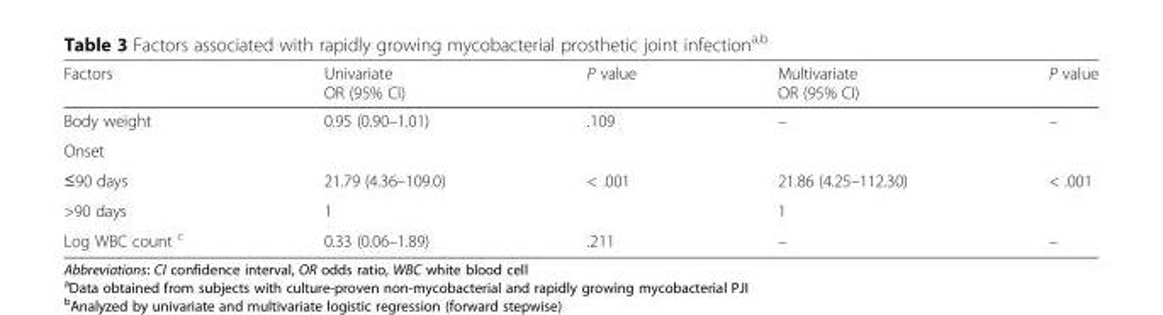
<table><thead><tr><td>Factors</td><td>Univariate OR (95% CI)</td><td>P value</td><td>Multivariate OR (95% CI)</td><td>P value</td></tr></thead><tbody><tr><td>Body weight</td><td>0.95 (0.90–1.01)</td><td>.109</td><td>–</td><td>–</td></tr><tr><td colspan="5">Onset</td></tr><tr><td>≤90 days</td><td>21.79 (4.36–109.0)</td><td>&lt; .001</td><td>21.86 (4.25–112.30)</td><td>&lt; .001</td></tr><tr><td>&gt;90 days</td><td>1</td><td></td><td>1</td><td></td></tr><tr><td>Log WBC count <sup>c</sup></td><td>0.33 (0.06–1.89)</td><td>.211</td><td>–</td><td>–</td></tr></tbody></table>